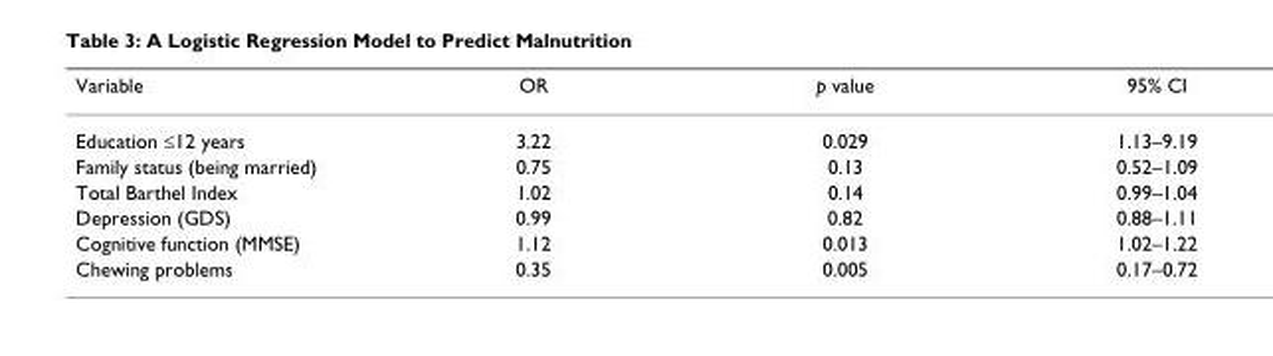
<table><thead><tr><td>Variable</td><td>OR</td><td>p value</td><td>95% CI</td></tr></thead><tbody><tr><td>Education ≤12 years</td><td>3.22</td><td>0.029</td><td>1.13–9.19</td></tr><tr><td>Family status (being married)</td><td>0.75</td><td>0.13</td><td>0.52–1.09</td></tr><tr><td>Total Barthel Index</td><td>1.02</td><td>0.14</td><td>0.99–1.04</td></tr><tr><td>Depression (GDS)</td><td>0.99</td><td>0.82</td><td>0.88–1.11</td></tr><tr><td>Cognitive function (MMSE)</td><td>1.12</td><td>0.013</td><td>1.02–1.22</td></tr><tr><td>Chewing problems</td><td>0.35</td><td>0.005</td><td>0.17–0.72</td></tr></tbody></table>